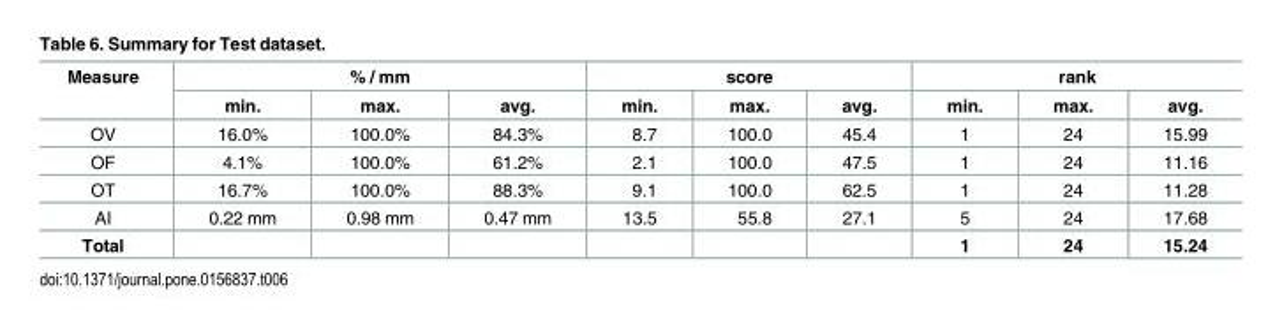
<table><thead><tr><td rowspan="2">Measure</td><td colspan="3">% / mm</td><td colspan="3">score</td><td colspan="3">rank</td></tr><tr><td>min.</td><td>max.</td><td>avg.</td><td>min.</td><td>max.</td><td>avg.</td><td>min.</td><td>max.</td><td>avg.</td></tr></thead><tbody><tr><td>OV</td><td>16.0%</td><td>100.0%</td><td>84.3%</td><td>8.7</td><td>100.0</td><td>45.4</td><td>1</td><td>24</td><td>15.99</td></tr><tr><td>OF</td><td>4.1%</td><td>100.0%</td><td>61.2%</td><td>2.1</td><td>100.0</td><td>47.5</td><td>1</td><td>24</td><td>11.16</td></tr><tr><td>OT</td><td>16.7%</td><td>100.0%</td><td>88.3%</td><td>9.1</td><td>100.0</td><td>62.5</td><td>1</td><td>24</td><td>11.28</td></tr><tr><td>AI</td><td>0.22 mm</td><td>0.98 mm</td><td>0.47 mm</td><td>13.5</td><td>55.8</td><td>27.1</td><td>5</td><td>24</td><td>17.68</td></tr><tr><td>Total</td><td></td><td></td><td></td><td></td><td></td><td></td><td>1</td><td>24</td><td>15.24</td></tr></tbody></table>